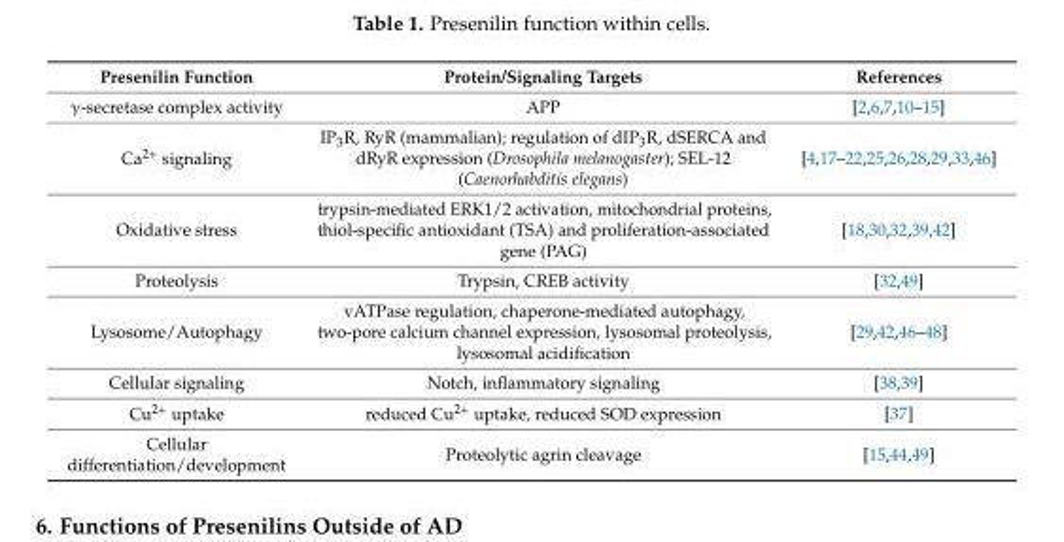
<table><thead><tr><td>Presenilin Function</td><td>Protein/Signaling Targets</td><td>References</td></tr></thead><tbody><tr><td>γ-secretase complex activity</td><td>APP</td><td>[2,6,7,10–15]</td></tr><tr><td>Ca<sup>2+</sup> signaling</td><td>IP<sub>3</sub>R, RyR (mammalian); regulation of dIP<sub>3</sub>R, dSERCA and dRyR expression (Drosophila melanogaster); SEL-12 (Caenorhabditis elegans)</td><td>[4,17–22,25,26,28,29,33,46]</td></tr><tr><td>Oxidative stress</td><td>trypsin-mediated ERK1/2 activation, mitochondrial proteins, thiol-specific antioxidant (TSA) and proliferation-associated gene (PAG)</td><td>[18,30,32,39,42]</td></tr><tr><td>Proteolysis</td><td>Trypsin, CREB activity</td><td>[32,49]</td></tr><tr><td>Lysosome/Autophagy</td><td>vATPase regulation, chaperone-mediated autophagy, two-pore calcium channel expression, lysosomal proteolysis, lysosomal acidification</td><td>[29,42,46–48]</td></tr><tr><td>Cellular signaling</td><td>Notch, inflammatory signaling</td><td>[38,39]</td></tr><tr><td>Cu<sup>2+</sup> uptake</td><td>reduced Cu<sup>2+</sup> uptake, reduced SOD expression</td><td>[37]</td></tr><tr><td>Cellular differentiation/development</td><td>Proteolytic agrin cleavage</td><td>[15,44,49]</td></tr></tbody></table>